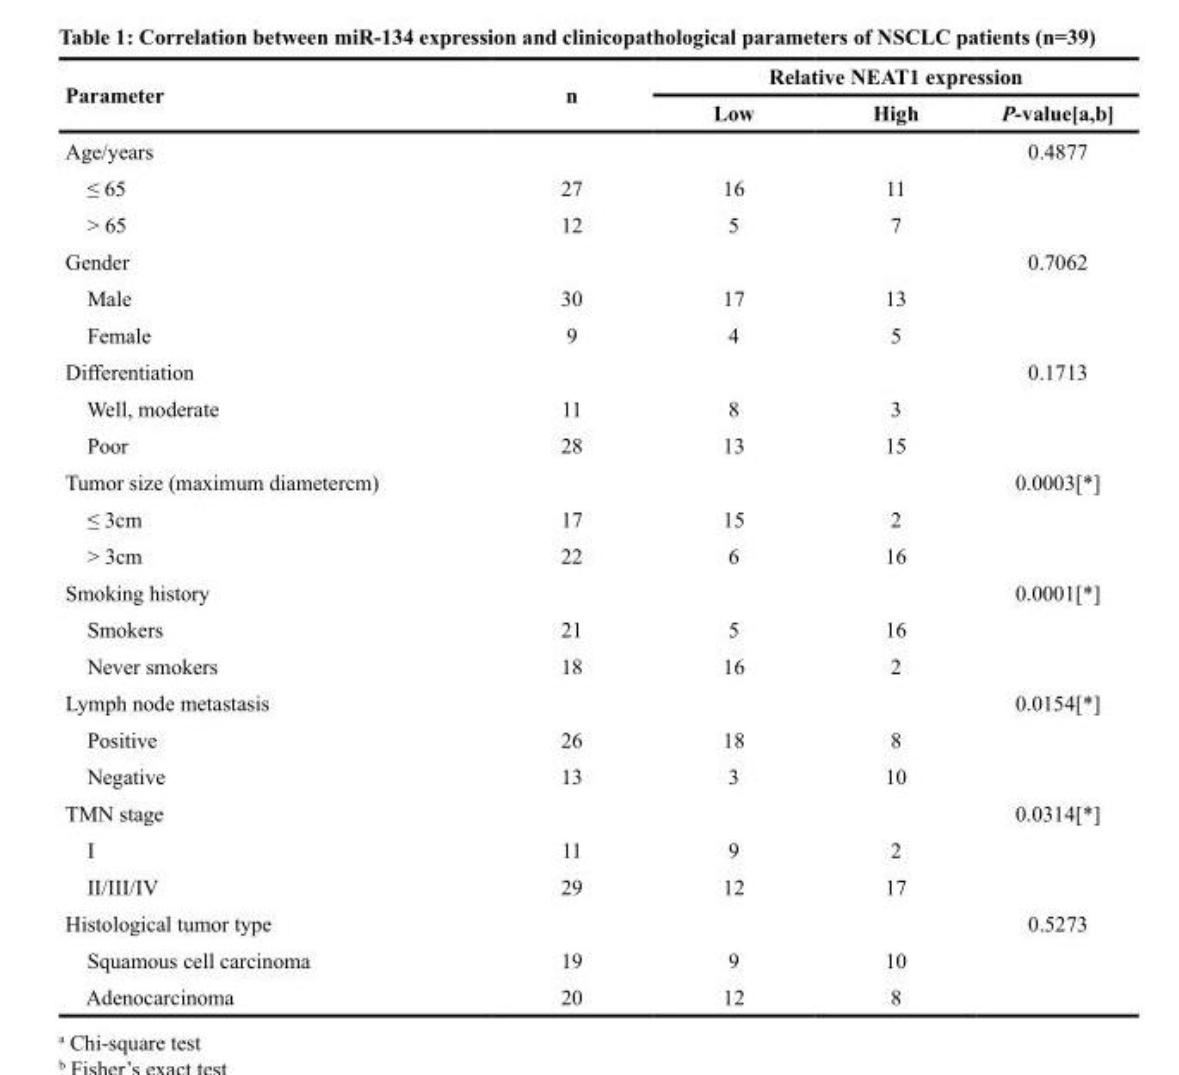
<table><thead><tr><td rowspan="2">Parameter</td><td rowspan="2">n</td><td colspan="3">Relative NEAT1 expression</td></tr><tr><td>Low</td><td>High</td><td>P-value[<sup>a</sup>,<sup>b</sup>]</td></tr></thead><tbody><tr><td>Age/years</td><td></td><td></td><td></td><td>0.4877</td></tr><tr><td>≤ 65</td><td>27</td><td>16</td><td>11</td><td></td></tr><tr><td>&gt; 65</td><td>12</td><td>5</td><td>7</td><td></td></tr><tr><td>Gender</td><td></td><td></td><td></td><td>0.7062</td></tr><tr><td>Male</td><td>30</td><td>17</td><td>13</td><td></td></tr><tr><td>Female</td><td>9</td><td>4</td><td>5</td><td></td></tr><tr><td>Differentiation</td><td></td><td></td><td></td><td>0.1713</td></tr><tr><td>Well, moderate</td><td>11</td><td>8</td><td>3</td><td></td></tr><tr><td>Poor</td><td>28</td><td>13</td><td>15</td><td></td></tr><tr><td>Tumor size (maximum diametercm)</td><td></td><td></td><td></td><td>0.0003[*]</td></tr><tr><td>≤ 3cm</td><td>17</td><td>15</td><td>2</td><td></td></tr><tr><td>&gt; 3cm</td><td>22</td><td>6</td><td>16</td><td></td></tr><tr><td>Smoking history</td><td></td><td></td><td></td><td>0.0001[*]</td></tr><tr><td>Smokers</td><td>21</td><td>5</td><td>16</td><td></td></tr><tr><td>Never smokers</td><td>18</td><td>16</td><td>2</td><td></td></tr><tr><td>Lymph node metastasis</td><td></td><td></td><td></td><td>0.0154[*]</td></tr><tr><td>Positive</td><td>26</td><td>18</td><td>8</td><td></td></tr><tr><td>Negative</td><td>13</td><td>3</td><td>10</td><td></td></tr><tr><td>TMN stage</td><td></td><td></td><td></td><td>0.0314[*]</td></tr><tr><td>I</td><td>11</td><td>9</td><td>2</td><td></td></tr><tr><td>II/III/IV</td><td>29</td><td>12</td><td>17</td><td></td></tr><tr><td>Histological tumor type</td><td></td><td></td><td></td><td>0.5273</td></tr><tr><td>Squamous cell carcinoma</td><td>19</td><td>9</td><td>10</td><td></td></tr><tr><td>Adenocarcinoma</td><td>20</td><td>12</td><td>8</td><td></td></tr></tbody></table>